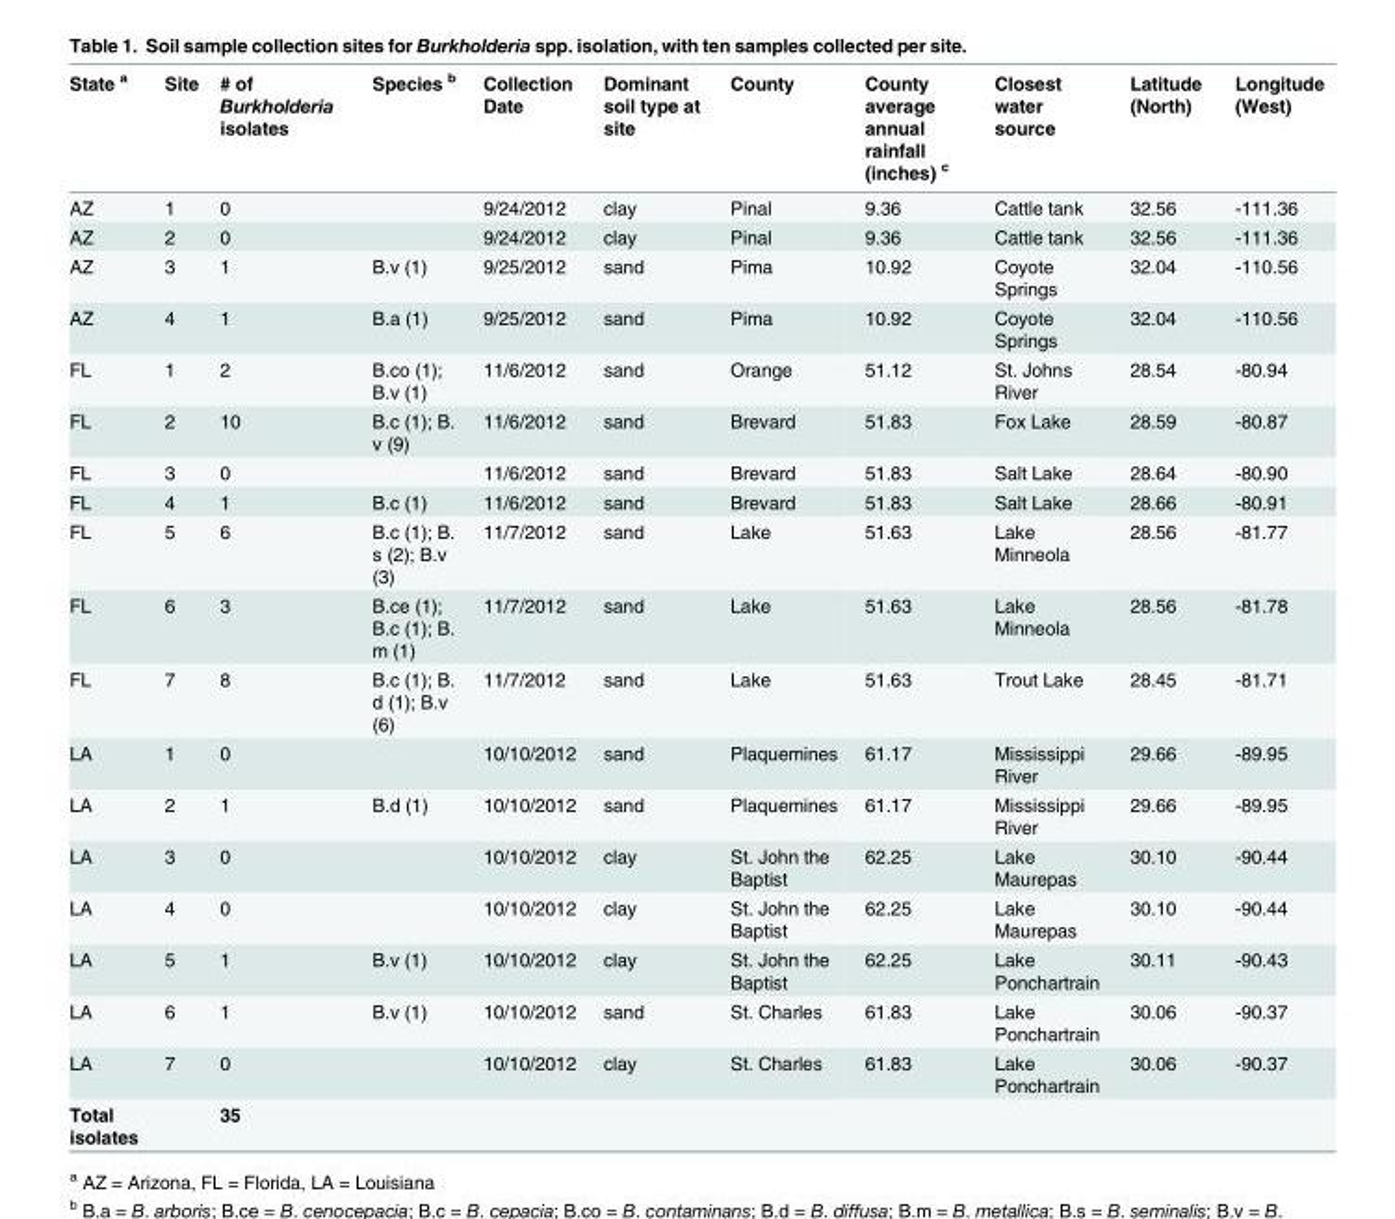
<table><thead><tr><td>State <sup>a</sup></td><td>Site</td><td># of Burkholderia isolates</td><td>Species <sup>b</sup></td><td>Collection Date</td><td>Dominant soil type at site</td><td>County</td><td>County average annual rainfall (inches) <sup>c</sup></td><td>Closest water source</td><td>Latitude (North)</td><td>Longitude (West)</td></tr></thead><tbody><tr><td>AZ</td><td>1</td><td>0</td><td></td><td>9/24/2012</td><td>clay</td><td>Pinal</td><td>9.36</td><td>Cattle tank</td><td>32.56</td><td>-111.36</td></tr><tr><td>AZ</td><td>2</td><td>0</td><td></td><td>9/24/2012</td><td>clay</td><td>Pinal</td><td>9.36</td><td>Cattle tank</td><td>32.56</td><td>-111.36</td></tr><tr><td>AZ</td><td>3</td><td>1</td><td>B.v (1)</td><td>9/25/2012</td><td>sand</td><td>Pima</td><td>10.92</td><td>Coyote Springs</td><td>32.04</td><td>-110.56</td></tr><tr><td>AZ</td><td>4</td><td>1</td><td>B.a (1)</td><td>9/25/2012</td><td>sand</td><td>Pima</td><td>10.92</td><td>Coyote Springs</td><td>32.04</td><td>-110.56</td></tr><tr><td>FL</td><td>1</td><td>2</td><td>B.co (1); B.v (1)</td><td>11/6/2012</td><td>sand</td><td>Orange</td><td>51.12</td><td>St. Johns River</td><td>28.54</td><td>-80.94</td></tr><tr><td>FL</td><td>2</td><td>10</td><td>B.c (1); B. v (9)</td><td>11/6/2012</td><td>sand</td><td>Brevard</td><td>51.83</td><td>Fox Lake</td><td>28.59</td><td>-80.87</td></tr><tr><td>FL</td><td>3</td><td>0</td><td></td><td>11/6/2012</td><td>sand</td><td>Brevard</td><td>51.83</td><td>Salt Lake</td><td>28.64</td><td>-80.90</td></tr><tr><td>FL</td><td>4</td><td>1</td><td>B.c (1)</td><td>11/6/2012</td><td>sand</td><td>Brevard</td><td>51.83</td><td>Salt Lake</td><td>28.66</td><td>-80.91</td></tr><tr><td>FL</td><td>5</td><td>6</td><td>B.c (1); B. s (2); B.v (3)</td><td>11/7/2012</td><td>sand</td><td>Lake</td><td>51.63</td><td>Lake Minneola</td><td>28.56</td><td>-81.77</td></tr><tr><td>FL</td><td>6</td><td>3</td><td>B.ce (1); B.c (1); B. m (1)</td><td>11/7/2012</td><td>sand</td><td>Lake</td><td>51.63</td><td>Lake Minneola</td><td>28.56</td><td>-81.78</td></tr><tr><td>FL</td><td>7</td><td>8</td><td>B.c (1); B. d (1); B.v (6)</td><td>11/7/2012</td><td>sand</td><td>Lake</td><td>51.63</td><td>Trout Lake</td><td>28.45</td><td>-81.71</td></tr><tr><td>LA</td><td>1</td><td>0</td><td></td><td>10/10/2012</td><td>sand</td><td>Plaquemines</td><td>61.17</td><td>Mississippi River</td><td>29.66</td><td>-89.95</td></tr><tr><td>LA</td><td>2</td><td>1</td><td>B.d (1)</td><td>10/10/2012</td><td>sand</td><td>Plaquemines</td><td>61.17</td><td>Mississippi River</td><td>29.66</td><td>-89.95</td></tr><tr><td>LA</td><td>3</td><td>0</td><td></td><td>10/10/2012</td><td>clay</td><td>St. John the Baptist</td><td>62.25</td><td>Lake Maurepas</td><td>30.10</td><td>-90.44</td></tr><tr><td>LA</td><td>4</td><td>0</td><td></td><td>10/10/2012</td><td>clay</td><td>St. John the Baptist</td><td>62.25</td><td>Lake Maurepas</td><td>30.10</td><td>-90.44</td></tr><tr><td>LA</td><td>5</td><td>1</td><td>B.v (1)</td><td>10/10/2012</td><td>clay</td><td>St. John the Baptist</td><td>62.25</td><td>Lake Ponchartrain</td><td>30.11</td><td>-90.43</td></tr><tr><td>LA</td><td>6</td><td>1</td><td>B.v (1)</td><td>10/10/2012</td><td>sand</td><td>St. Charles</td><td>61.83</td><td>Lake Ponchartrain</td><td>30.06</td><td>-90.37</td></tr><tr><td>LA</td><td>7</td><td>0</td><td></td><td>10/10/2012</td><td>clay</td><td>St. Charles</td><td>61.83</td><td>Lake Ponchartrain</td><td>30.06</td><td>-90.37</td></tr><tr><td>Total isolates</td><td></td><td>35</td><td></td><td></td><td></td><td></td><td></td><td></td><td></td><td></td></tr></tbody></table>